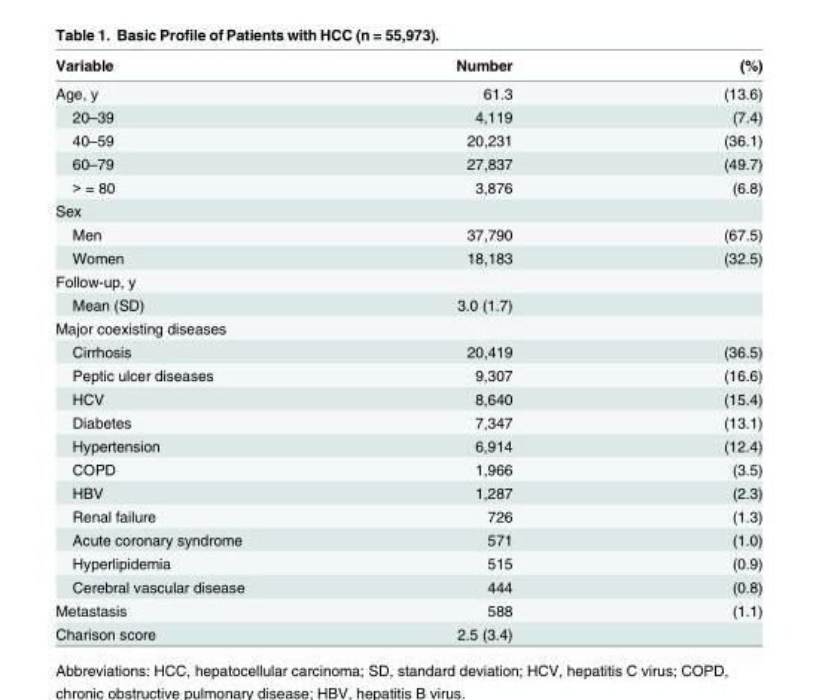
<table><thead><tr><td>Variable</td><td>Number</td><td>(%)</td></tr></thead><tbody><tr><td>Age, y</td><td>61.3</td><td>(13.6)</td></tr><tr><td>20–39</td><td>4,119</td><td>(7.4)</td></tr><tr><td>40–59</td><td>20,231</td><td>(36.1)</td></tr><tr><td>60–79</td><td>27,837</td><td>(49.7)</td></tr><tr><td>&gt; = 80</td><td>3,876</td><td>(6.8)</td></tr><tr><td colspan="3">Sex</td></tr><tr><td>Men</td><td>37,790</td><td>(67.5)</td></tr><tr><td>Women</td><td>18,183</td><td>(32.5)</td></tr><tr><td colspan="3">Follow-up, y</td></tr><tr><td>Mean (SD)</td><td>3.0 (1.7)</td><td></td></tr><tr><td colspan="3">Major coexisting diseases</td></tr><tr><td>Cirrhosis</td><td>20,419</td><td>(36.5)</td></tr><tr><td>Peptic ulcer diseases</td><td>9,307</td><td>(16.6)</td></tr><tr><td>HCV</td><td>8,640</td><td>(15.4)</td></tr><tr><td>Diabetes</td><td>7,347</td><td>(13.1)</td></tr><tr><td>Hypertension</td><td>6,914</td><td>(12.4)</td></tr><tr><td>COPD</td><td>1,966</td><td>(3.5)</td></tr><tr><td>HBV</td><td>1,287</td><td>(2.3)</td></tr><tr><td>Renal failure</td><td>726</td><td>(1.3)</td></tr><tr><td>Acute coronary syndrome</td><td>571</td><td>(1.0)</td></tr><tr><td>Hyperlipidemia</td><td>515</td><td>(0.9)</td></tr><tr><td>Cerebral vascular disease</td><td>444</td><td>(0.8)</td></tr><tr><td>Metastasis</td><td>588</td><td>(1.1)</td></tr><tr><td>Charison score</td><td>2.5 (3.4)</td><td></td></tr></tbody></table>